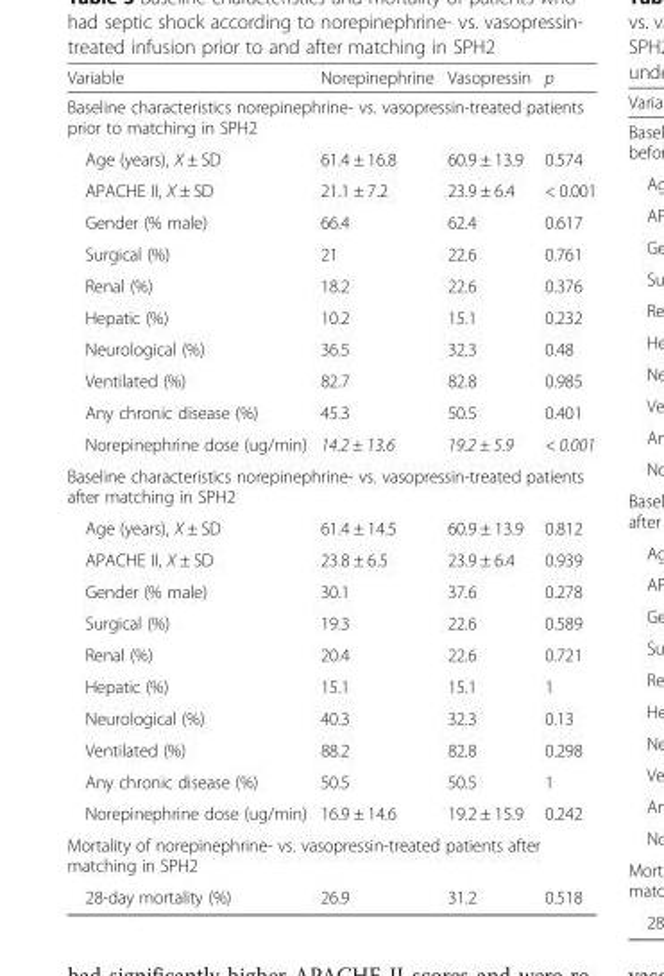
<table><thead><tr><td>Variable</td><td>Norepinephrine</td><td>Vasopressin</td><td>p</td></tr></thead><tbody><tr><td colspan="4">Baseline characteristics norepinephrine- vs. vasopressin-treated patients prior to matching in SPH2</td></tr><tr><td>Age (years), X ± SD</td><td>61.4 ± 16.8</td><td>60.9 ± 13.9</td><td>0.574</td></tr><tr><td>APACHE II, X ± SD</td><td>21.1 ± 7.2</td><td>23.9 ± 6.4</td><td>&lt; 0.001</td></tr><tr><td>Gender (% male)</td><td>66.4</td><td>62.4</td><td>0.617</td></tr><tr><td>Surgical (%)</td><td>21</td><td>22.6</td><td>0.761</td></tr><tr><td>Renal (%)</td><td>18.2</td><td>22.6</td><td>0.376</td></tr><tr><td>Hepatic (%)</td><td>10.2</td><td>15.1</td><td>0.232</td></tr><tr><td>Neurological (%)</td><td>36.5</td><td>32.3</td><td>0.48</td></tr><tr><td>Ventilated (%)</td><td>82.7</td><td>82.8</td><td>0.985</td></tr><tr><td>Any chronic disease (%)</td><td>45.3</td><td>50.5</td><td>0.401</td></tr><tr><td>Norepinephrine dose (ug/min)</td><td>14.2 ± 13.6</td><td>19.2 ± 5.9</td><td>&lt; 0.001</td></tr><tr><td colspan="4">Baseline characteristics norepinephrine- vs. vasopressin-treated patients after matching in SPH2</td></tr><tr><td>Age (years), X ± SD</td><td>61.4 ± 14.5</td><td>60.9 ± 13.9</td><td>0.812</td></tr><tr><td>APACHE II, X ± SD</td><td>23.8 ± 6.5</td><td>23.9 ± 6.4</td><td>0.939</td></tr><tr><td>Gender (% male)</td><td>30.1</td><td>37.6</td><td>0.278</td></tr><tr><td>Surgical (%)</td><td>19.3</td><td>22.6</td><td>0.589</td></tr><tr><td>Renal (%)</td><td>20.4</td><td>22.6</td><td>0.721</td></tr><tr><td>Hepatic (%)</td><td>15.1</td><td>15.1</td><td>1</td></tr><tr><td>Neurological (%)</td><td>40.3</td><td>32.3</td><td>0.13</td></tr><tr><td>Ventilated (%)</td><td>88.2</td><td>82.8</td><td>0.298</td></tr><tr><td>Any chronic disease (%)</td><td>50.5</td><td>50.5</td><td>1</td></tr><tr><td>Norepinephrine dose (ug/min)</td><td>16.9 ± 14.6</td><td>19.2 ± 15.9</td><td>0.242</td></tr><tr><td colspan="4">Mortality of norepinephrine- vs. vasopressin-treated patients after matching in SPH2</td></tr><tr><td>28-day mortality (%)</td><td>26.9</td><td>31.2</td><td>0.518</td></tr></tbody></table>